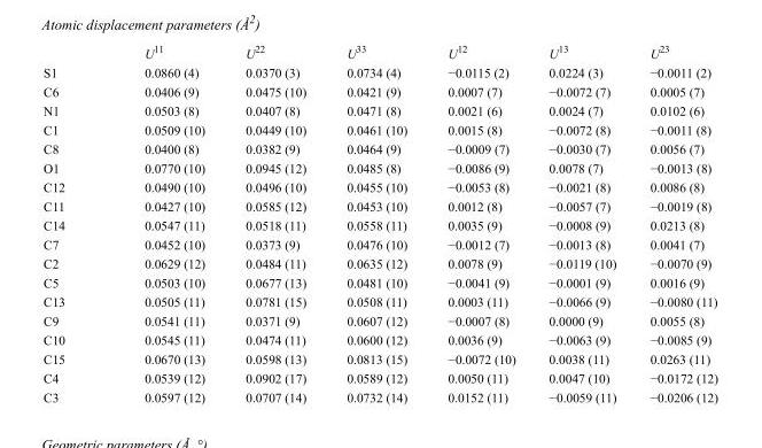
<table><thead><tr><td></td><td>U<sup>11</sup></td><td>U<sup>22</sup></td><td>U<sup>33</sup></td><td>U<sup>12</sup></td><td>U<sup>13</sup></td><td>U<sup>23</sup></td></tr></thead><tbody><tr><td>S1</td><td>0.0860 (4)</td><td>0.0370 (3)</td><td>0.0734 (4)</td><td>−0.0115 (2)</td><td>0.0224 (3)</td><td>−0.0011 (2)</td></tr><tr><td>C6</td><td>0.0406 (9)</td><td>0.0475 (10)</td><td>0.0421 (9)</td><td>0.0007 (7)</td><td>−0.0072 (7)</td><td>0.0005 (7)</td></tr><tr><td>N1</td><td>0.0503 (8)</td><td>0.0407 (8)</td><td>0.0471 (8)</td><td>0.0021 (6)</td><td>0.0024 (7)</td><td>0.0102 (6)</td></tr><tr><td>C1</td><td>0.0509 (10)</td><td>0.0449 (10)</td><td>0.0461 (10)</td><td>0.0015 (8)</td><td>−0.0072 (8)</td><td>−0.0011 (8)</td></tr><tr><td>C8</td><td>0.0400 (8)</td><td>0.0382 (9)</td><td>0.0464 (9)</td><td>−0.0009 (7)</td><td>−0.0030 (7)</td><td>0.0056 (7)</td></tr><tr><td>O1</td><td>0.0770 (10)</td><td>0.0945 (12)</td><td>0.0485 (8)</td><td>−0.0086 (9)</td><td>0.0078 (7)</td><td>−0.0013 (8)</td></tr><tr><td>C12</td><td>0.0490 (10)</td><td>0.0496 (10)</td><td>0.0455 (10)</td><td>−0.0053 (8)</td><td>−0.0021 (8)</td><td>0.0086 (8)</td></tr><tr><td>C11</td><td>0.0427 (10)</td><td>0.0585 (12)</td><td>0.0453 (10)</td><td>0.0012 (8)</td><td>−0.0057 (7)</td><td>−0.0019 (8)</td></tr><tr><td>C14</td><td>0.0547 (11)</td><td>0.0518 (11)</td><td>0.0558 (11)</td><td>0.0035 (9)</td><td>−0.0008 (9)</td><td>0.0213 (8)</td></tr><tr><td>C7</td><td>0.0452 (10)</td><td>0.0373 (9)</td><td>0.0476 (10)</td><td>−0.0012 (7)</td><td>−0.0013 (8)</td><td>0.0041 (7)</td></tr><tr><td>C2</td><td>0.0629 (12)</td><td>0.0484 (11)</td><td>0.0635 (12)</td><td>0.0078 (9)</td><td>−0.0119 (10)</td><td>−0.0070 (9)</td></tr><tr><td>C5</td><td>0.0503 (10)</td><td>0.0677 (13)</td><td>0.0481 (10)</td><td>−0.0041 (9)</td><td>−0.0001 (9)</td><td>0.0016 (9)</td></tr><tr><td>C13</td><td>0.0505 (11)</td><td>0.0781 (15)</td><td>0.0508 (11)</td><td>0.0003 (11)</td><td>−0.0066 (9)</td><td>−0.0080 (11)</td></tr><tr><td>C9</td><td>0.0541 (11)</td><td>0.0371 (9)</td><td>0.0607 (12)</td><td>−0.0007 (8)</td><td>0.0000 (9)</td><td>0.0055 (8)</td></tr><tr><td>C10</td><td>0.0545 (11)</td><td>0.0474 (11)</td><td>0.0600 (12)</td><td>0.0036 (9)</td><td>−0.0063 (9)</td><td>−0.0085 (9)</td></tr><tr><td>C15</td><td>0.0670 (13)</td><td>0.0598 (13)</td><td>0.0813 (15)</td><td>−0.0072 (10)</td><td>0.0038 (11)</td><td>0.0263 (11)</td></tr><tr><td>C4</td><td>0.0539 (12)</td><td>0.0902 (17)</td><td>0.0589 (12)</td><td>0.0050 (11)</td><td>0.0047 (10)</td><td>−0.0172 (12)</td></tr><tr><td>C3</td><td>0.0597 (12)</td><td>0.0707 (14)</td><td>0.0732 (14)</td><td>0.0152 (11)</td><td>−0.0059 (11)</td><td>−0.0206 (12)</td></tr></tbody></table>